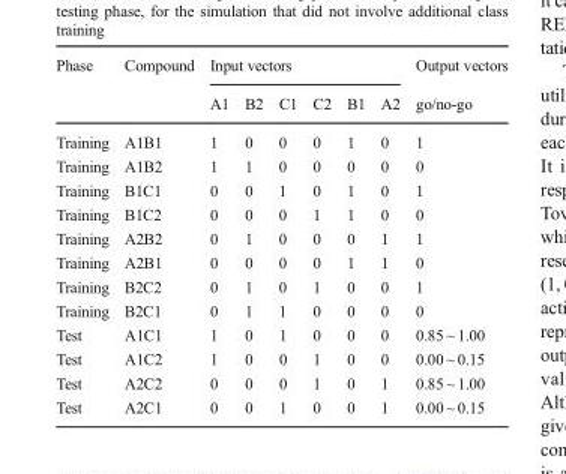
<table><thead><tr><td rowspan="2">Phase</td><td rowspan="2">Compound</td><td colspan="6">Input vectors</td><td rowspan="2">Output vectors go/no-go</td></tr><tr><td>A1</td><td>B2</td><td>C1</td><td>C2</td><td>B1</td><td>A2</td></tr></thead><tbody><tr><td>Training</td><td>A1B1</td><td>1</td><td>0</td><td>0</td><td>0</td><td>1</td><td>0</td><td>1</td></tr><tr><td>Training</td><td>A1B2</td><td>1</td><td>1</td><td>0</td><td>0</td><td>0</td><td>0</td><td>0</td></tr><tr><td>Training</td><td>B1C1</td><td>0</td><td>0</td><td>1</td><td>0</td><td>1</td><td>0</td><td>1</td></tr><tr><td>Training</td><td>B1C2</td><td>0</td><td>0</td><td>0</td><td>1</td><td>1</td><td>0</td><td>0</td></tr><tr><td>Training</td><td>A2B2</td><td>0</td><td>1</td><td>0</td><td>0</td><td>0</td><td>1</td><td>1</td></tr><tr><td>Training</td><td>A2B1</td><td>0</td><td>0</td><td>0</td><td>0</td><td>1</td><td>1</td><td>0</td></tr><tr><td>Training</td><td>B2C2</td><td>0</td><td>1</td><td>0</td><td>1</td><td>0</td><td>0</td><td>1</td></tr><tr><td>Training</td><td>B2C1</td><td>0</td><td>1</td><td>1</td><td>0</td><td>0</td><td>0</td><td>0</td></tr><tr><td>Test</td><td>A1C1</td><td>1</td><td>0</td><td>1</td><td>0</td><td>0</td><td>0</td><td>0.85 ~ 1.00</td></tr><tr><td>Test</td><td>A1C2</td><td>1</td><td>0</td><td>0</td><td>1</td><td>0</td><td>0</td><td>0.00 ~ 0.15</td></tr><tr><td>Test</td><td>A2C2</td><td>0</td><td>0</td><td>0</td><td>1</td><td>0</td><td>1</td><td>0.85 ~ 1.00</td></tr><tr><td>Test</td><td>A2C1</td><td>0</td><td>0</td><td>1</td><td>0</td><td>0</td><td>1</td><td>0.00 ~ 0.15</td></tr></tbody></table>